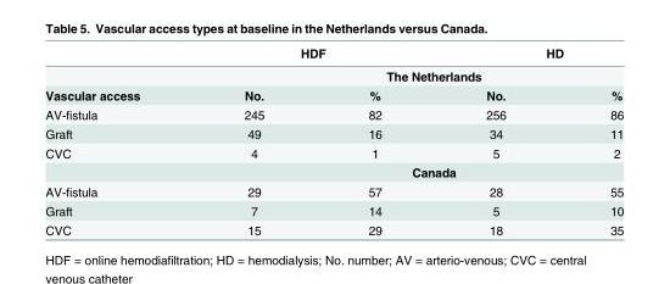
<table><thead><tr><td rowspan="3">Vascular access</td><td colspan="2">HDF</td><td colspan="2">HD</td></tr><tr><td colspan="4">The Netherlands</td></tr><tr><td>No.</td><td>%</td><td>No.</td><td>%</td></tr></thead><tbody><tr><td>AV-fistula</td><td>245</td><td>82</td><td>256</td><td>86</td></tr><tr><td>Graft</td><td>49</td><td>16</td><td>34</td><td>11</td></tr><tr><td rowspan="2">CVC</td><td>4</td><td>1</td><td>5</td><td>2</td></tr><tr><td colspan="4">Canada</td></tr><tr><td>AV-fistula</td><td>29</td><td>57</td><td>28</td><td>55</td></tr><tr><td>Graft</td><td>7</td><td>14</td><td>5</td><td>10</td></tr><tr><td>CVC</td><td>15</td><td>29</td><td>18</td><td>35</td></tr></tbody></table>